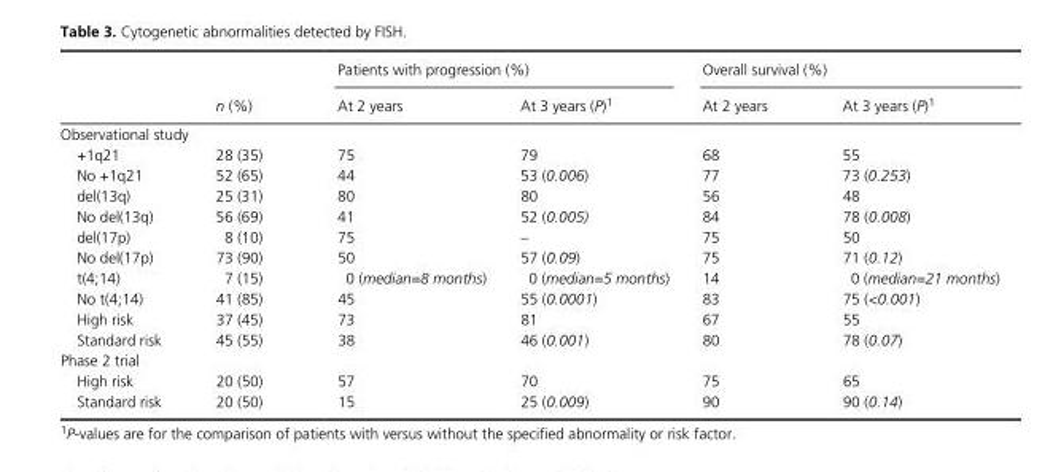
<table><thead><tr><td rowspan="2"></td><td rowspan="2">n (%)</td><td colspan="2">Patients with progression (%)</td><td colspan="2">Overall survival (%)</td></tr><tr><td>At 2 years</td><td>At 3 years (P)1</td><td>At 2 years</td><td>At 3 years (P)1</td></tr></thead><tbody><tr><td colspan="6">Observational study</td></tr><tr><td>+1q21</td><td>28 (35)</td><td>75</td><td>79</td><td>68</td><td>55</td></tr><tr><td>No +1q21</td><td>52 (65)</td><td>44</td><td>53 (0.006)</td><td>77</td><td>73 (0.253)</td></tr><tr><td>del(13q)</td><td>25 (31)</td><td>80</td><td>80</td><td>56</td><td>48</td></tr><tr><td>No del(13q)</td><td>56 (69)</td><td>41</td><td>52 (0.005)</td><td>84</td><td>78 (0.008)</td></tr><tr><td>del(17p)</td><td>8 (10)</td><td>75</td><td>–</td><td>75</td><td>50</td></tr><tr><td>No del(17p)</td><td>73 (90)</td><td>50</td><td>57 (0.09)</td><td>75</td><td>71 (0.12)</td></tr><tr><td>t(4;14)</td><td>7 (15)</td><td>0 (median=8 months)</td><td>0 (median=5 months)</td><td>14</td><td>0 (median=21 months)</td></tr><tr><td>No t(4;14)</td><td>41 (85)</td><td>45</td><td>55 (0.0001)</td><td>83</td><td>75 (&lt;0.001)</td></tr><tr><td>High risk</td><td>37 (45)</td><td>73</td><td>81</td><td>67</td><td>55</td></tr><tr><td>Standard risk</td><td>45 (55)</td><td>38</td><td>46 (0.001)</td><td>80</td><td>78 (0.07)</td></tr><tr><td colspan="6">Phase 2 trial</td></tr><tr><td>High risk</td><td>20 (50)</td><td>57</td><td>70</td><td>75</td><td>65</td></tr><tr><td>Standard risk</td><td>20 (50)</td><td>15</td><td>25 (0.009)</td><td>90</td><td>90 (0.14)</td></tr></tbody></table>